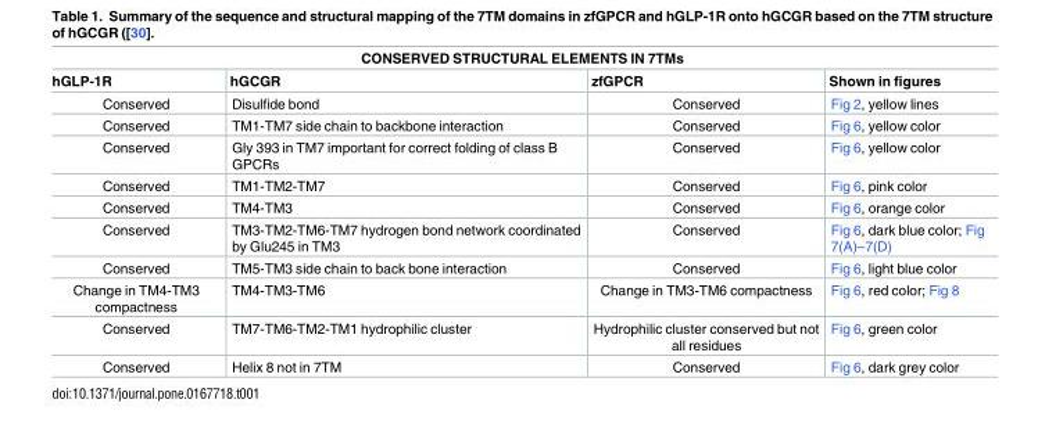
<table><thead><tr><td colspan="4">CONSERVED STRUCTURAL ELEMENTS IN 7TMs</td></tr><tr><td>hGLP-1R</td><td>hGCGR</td><td>zfGPCR</td><td>Shown in figures</td></tr></thead><tbody><tr><td>Conserved</td><td>Disulfide bond</td><td>Conserved</td><td>Fig 2, yellow lines</td></tr><tr><td>Conserved</td><td>TM1-TM7 side chain to backbone interaction</td><td>Conserved</td><td>Fig 6, yellow color</td></tr><tr><td>Conserved</td><td>Gly 393 in TM7 important for correct folding of class B GPCRs</td><td>Conserved</td><td>Fig 6, yellow color</td></tr><tr><td>Conserved</td><td>TM1-TM2-TM7</td><td>Conserved</td><td>Fig 6, pink color</td></tr><tr><td>Conserved</td><td>TM4-TM3</td><td>Conserved</td><td>Fig 6, orange color</td></tr><tr><td>Conserved</td><td>TM3-TM2-TM6-TM7 hydrogen bond network coordinated by Glu245 in TM3</td><td>Conserved</td><td>Fig 6, dark blue color; Fig 7(A)–7(D)</td></tr><tr><td>Conserved</td><td>TM5-TM3 side chain to back bone interaction</td><td>Conserved</td><td>Fig 6, light blue color</td></tr><tr><td>Change in TM4-TM3 compactness</td><td>TM4-TM3-TM6</td><td>Change in TM3-TM6 compactness</td><td>Fig 6, red color; Fig 8</td></tr><tr><td>Conserved</td><td>TM7-TM6-TM2-TM1 hydrophilic cluster</td><td>Hydrophilic cluster conserved but not all residues</td><td>Fig 6, green color</td></tr><tr><td>Conserved</td><td>Helix 8 not in 7TM</td><td>Conserved</td><td>Fig 6, dark grey color</td></tr></tbody></table>